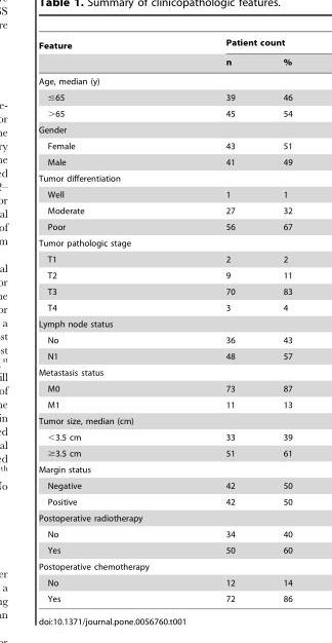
<table><thead><tr><td rowspan="2">Feature</td><td colspan="2">Patient count</td></tr><tr><td>n</td><td>%</td></tr></thead><tbody><tr><td colspan="3">Age, median (y)</td></tr><tr><td>≤65</td><td>39</td><td>46</td></tr><tr><td>&gt;65</td><td>45</td><td>54</td></tr><tr><td colspan="3">Gender</td></tr><tr><td>Female</td><td>43</td><td>51</td></tr><tr><td>Male</td><td>41</td><td>49</td></tr><tr><td colspan="3">Tumor differentiation</td></tr><tr><td>Well</td><td>1</td><td>1</td></tr><tr><td>Moderate</td><td>27</td><td>32</td></tr><tr><td>Poor</td><td>56</td><td>67</td></tr><tr><td colspan="3">Tumor pathologic stage</td></tr><tr><td>T1</td><td>2</td><td>2</td></tr><tr><td>T2</td><td>9</td><td>11</td></tr><tr><td>T3</td><td>70</td><td>83</td></tr><tr><td>T4</td><td>3</td><td>4</td></tr><tr><td colspan="3">Lymph node status</td></tr><tr><td>No</td><td>36</td><td>43</td></tr><tr><td>N1</td><td>48</td><td>57</td></tr><tr><td colspan="3">Metastasis status</td></tr><tr><td>M0</td><td>73</td><td>87</td></tr><tr><td>M1</td><td>11</td><td>13</td></tr><tr><td colspan="3">Tumor size, median (cm)</td></tr><tr><td>&lt;3.5 cm</td><td>33</td><td>39</td></tr><tr><td>≥3.5 cm</td><td>51</td><td>61</td></tr><tr><td colspan="3">Margin status</td></tr><tr><td>Negative</td><td>42</td><td>50</td></tr><tr><td>Positive</td><td>42</td><td>50</td></tr><tr><td colspan="3">Postoperative radiotherapy</td></tr><tr><td>No</td><td>34</td><td>40</td></tr><tr><td>Yes</td><td>50</td><td>60</td></tr><tr><td colspan="3">Postoperative chemotherapy</td></tr><tr><td>No</td><td>12</td><td>14</td></tr><tr><td>Yes</td><td>72</td><td>86</td></tr></tbody></table>